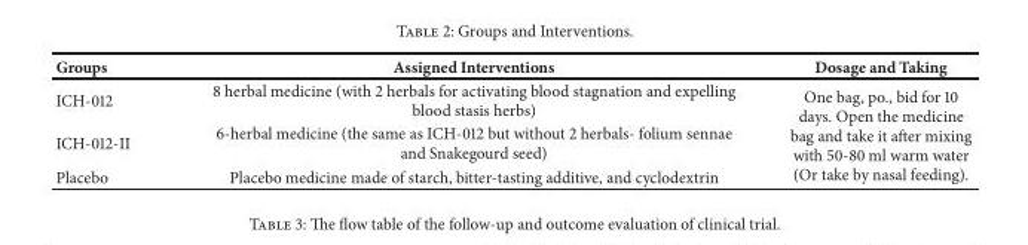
<table><thead><tr><td>Groups</td><td>Assigned Interventions</td><td>Dosage and Taking</td></tr></thead><tbody><tr><td>ICH-012</td><td>8 herbal medicine (with 2 herbals for activating blood stagnation and expelling blood stasis herbs)</td><td rowspan="3">One bag, po., bid for 10 days. Open the medicine bag and take it after mixing with 50-80 ml warm water (Or take by nasal feeding).</td></tr><tr><td>ICH-012-II</td><td>6-herbal medicine (the same as ICH-012 but without 2 herbals- folium sennae and Snakegourd seed)</td></tr><tr><td>Placebo</td><td>Placebo medicine made of starch, bitter-tasting additive, and cyclodextrin</td></tr></tbody></table>